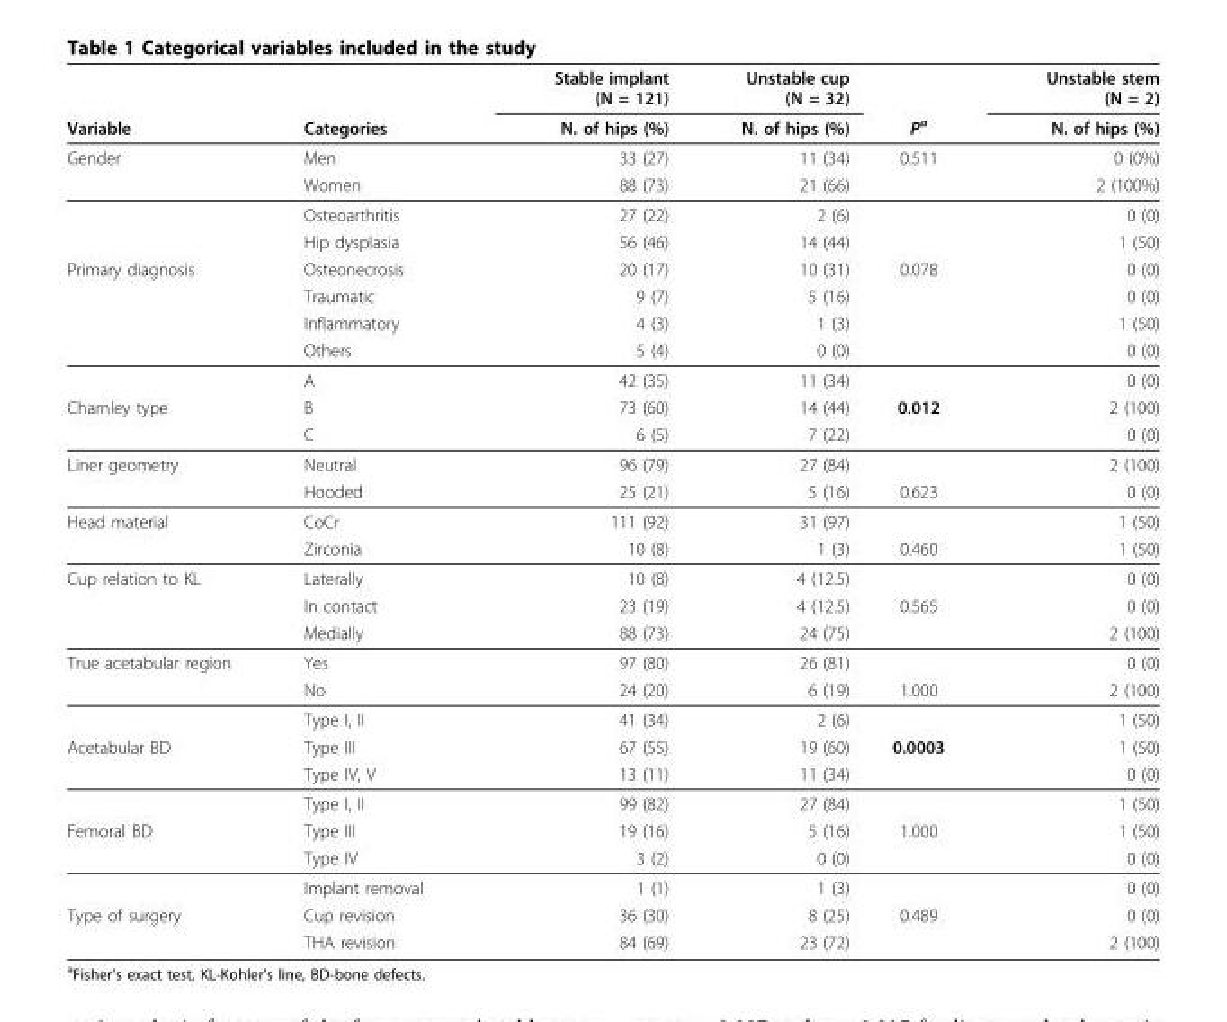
<table><thead><tr><td rowspan="2">Variable</td><td rowspan="2">Categories</td><td rowspan="2">Stable implant (N = 121) N. of hips (%)</td><td rowspan="2">Unstable cup (N = 32) N. of hips (%)</td><td rowspan="2">Pa</td><td rowspan="2">Unstable stem (N = 2) N. of hips (%)</td></tr><tr></tr></thead><tbody><tr><td rowspan="4">Gender</td><td>Men</td><td>33 (27)</td><td>11 (34)</td><td>0.511</td><td>0 (0%)</td></tr><tr><td>Women</td><td>88 (73)</td><td>21 (66)</td><td></td><td>2 (100%)</td></tr><tr><td>Osteoarthritis</td><td>27 (22)</td><td>2 (6)</td><td></td><td>0 (0)</td></tr><tr><td>Hip dysplasia</td><td>56 (46)</td><td>14 (44)</td><td></td><td>1 (50)</td></tr><tr><td rowspan="5">Primary diagnosis</td><td>Osteonecrosis</td><td>20 (17)</td><td>10 (31)</td><td>0.078</td><td>0 (0)</td></tr><tr><td>Traumatic</td><td>9 (7)</td><td>5 (16)</td><td></td><td>0 (0)</td></tr><tr><td>Inflammatory</td><td>4 (3)</td><td>1 (3)</td><td></td><td>1 (50)</td></tr><tr><td>Others</td><td>5 (4)</td><td>0 (0)</td><td></td><td>0 (0)</td></tr><tr><td>A</td><td>42 (35)</td><td>11 (34)</td><td></td><td>0 (0)</td></tr><tr><td rowspan="2">Charnley type</td><td>B</td><td>73 (60)</td><td>14 (44)</td><td>0.012</td><td>2 (100)</td></tr><tr><td>C</td><td>6 (5)</td><td>7 (22)</td><td></td><td>0 (0)</td></tr><tr><td rowspan="2">Liner geometry</td><td>Neutral</td><td>96 (79)</td><td>27 (84)</td><td></td><td>2 (100)</td></tr><tr><td>Hooded</td><td>25 (21)</td><td>5 (16)</td><td>0.623</td><td>0 (0)</td></tr><tr><td rowspan="2">Head material</td><td>CoCr</td><td>111 (92)</td><td>31 (97)</td><td></td><td>1 (50)</td></tr><tr><td>Zirconia</td><td>10 (8)</td><td>1 (3)</td><td>0.460</td><td>1 (50)</td></tr><tr><td rowspan="3">Cup relation to KL</td><td>Laterally</td><td>10 (8)</td><td>4 (12.5)</td><td></td><td>0 (0)</td></tr><tr><td>In contact</td><td>23 (19)</td><td>4 (12.5)</td><td>0.565</td><td>0 (0)</td></tr><tr><td>Medially</td><td>88 (73)</td><td>24 (75)</td><td></td><td>2 (100)</td></tr><tr><td rowspan="3">True acetabular region</td><td>Yes</td><td>97 (80)</td><td>26 (81)</td><td></td><td>0 (0)</td></tr><tr><td>No</td><td>24 (20)</td><td>6 (19)</td><td>1.000</td><td>2 (100)</td></tr><tr><td>Type I, II</td><td>41 (34)</td><td>2 (6)</td><td></td><td>1 (50)</td></tr><tr><td rowspan="3">Acetabular BD</td><td>Type III</td><td>67 (55)</td><td>19 (60)</td><td>0.0003</td><td>1 (50)</td></tr><tr><td>Type IV, V</td><td>13 (11)</td><td>11 (34)</td><td></td><td>0 (0)</td></tr><tr><td>Type I, II</td><td>99 (82)</td><td>27 (84)</td><td></td><td>1 (50)</td></tr><tr><td rowspan="3">Femoral BD</td><td>Type III</td><td>19 (16)</td><td>5 (16)</td><td>1.000</td><td>1 (50)</td></tr><tr><td>Type IV</td><td>3 (2)</td><td>0 (0)</td><td></td><td>0 (0)</td></tr><tr><td>Implant removal</td><td>1 (1)</td><td>1 (3)</td><td></td><td>0 (0)</td></tr><tr><td rowspan="2">Type of surgery</td><td>Cup revision</td><td>36 (30)</td><td>8 (25)</td><td>0.489</td><td>0 (0)</td></tr><tr><td>THA revision</td><td>84 (69)</td><td>23 (72)</td><td></td><td>2 (100)</td></tr></tbody></table>